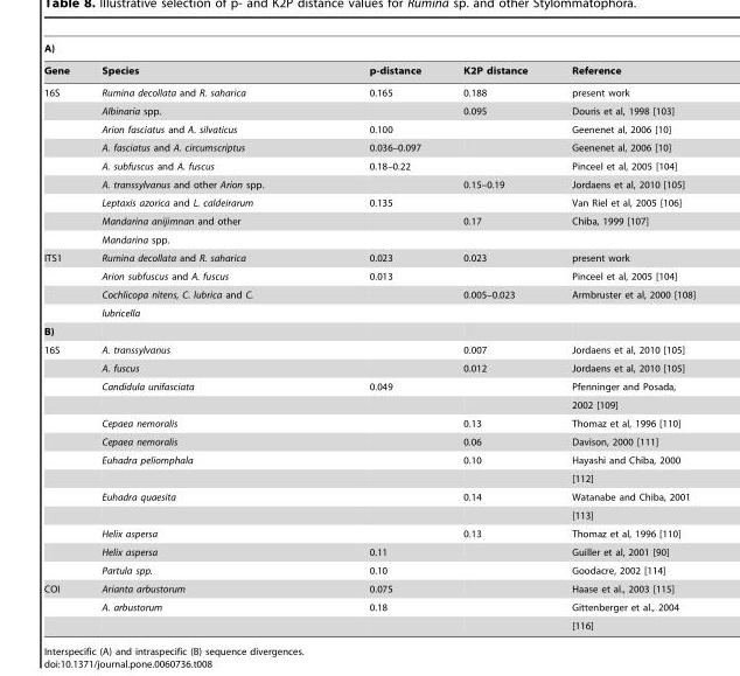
<table><thead><tr><td colspan="5">A)</td></tr><tr><td>Gene</td><td>Species</td><td>p-distance</td><td>K2P distance</td><td>Reference</td></tr></thead><tbody><tr><td rowspan="9">16S</td><td>Rumina decollata and R. saharica</td><td>0.165</td><td>0.188</td><td>present work</td></tr><tr><td>Albinaria spp.</td><td></td><td>0.095</td><td>Douris et al, 1998 [103]</td></tr><tr><td>Arion fasciatus and A. silvaticus</td><td>0.100</td><td></td><td>Geenenet al, 2006 [10]</td></tr><tr><td>A. fasciatus and A. circumscriptus</td><td>0.036–0.097</td><td></td><td>Geenenet al, 2006 [10]</td></tr><tr><td>A. subfuscus and A. fuscus</td><td>0.18–0.22</td><td></td><td>Pinceel et al, 2005 [104]</td></tr><tr><td>A. transsylvanus and other Arion spp.</td><td></td><td>0.15–0.19</td><td>Jordaens et al, 2010 [105]</td></tr><tr><td>Leptaxis azorica and L. caldeirarum</td><td>0.135</td><td></td><td>Van Riel et al, 2005 [106]</td></tr><tr><td>Mandarina anijimnan and other</td><td></td><td>0.17</td><td>Chiba, 1999 [107]</td></tr><tr><td>Mandarina spp.</td><td></td><td></td><td></td></tr><tr><td rowspan="4">ITS1</td><td>Rumina decollata and R. saharica</td><td>0.023</td><td>0.023</td><td>present work</td></tr><tr><td>Arion subfuscus and A. fuscus</td><td>0.013</td><td></td><td>Pinceel et al, 2005 [104]</td></tr><tr><td>Cochlicopa nitens, C. lubrica and C.</td><td></td><td>0.005–0.023</td><td>Armbruster et al, 2000 [108]</td></tr><tr><td>lubricella</td><td></td><td></td><td></td></tr><tr><td colspan="5">B)</td></tr><tr><td rowspan="13">16S</td><td>A. transsylvanus</td><td></td><td>0.007</td><td>Jordaens et al, 2010 [105]</td></tr><tr><td>A. fuscus</td><td></td><td>0.012</td><td>Jordaens et al, 2010 [105]</td></tr><tr><td>Candidula unifasciata</td><td>0.049</td><td></td><td>Pfenninger and Posada,</td></tr><tr><td></td><td></td><td></td><td>2002 [109]</td></tr><tr><td>Cepaea nemoralis</td><td></td><td>0.13</td><td>Thomaz et al, 1996 [110]</td></tr><tr><td>Cepaea nemoralis</td><td></td><td>0.06</td><td>Davison, 2000 [111]</td></tr><tr><td>Euhadra peliomphala</td><td></td><td>0.10</td><td>Hayashi and Chiba, 2000</td></tr><tr><td></td><td></td><td></td><td>[112]</td></tr><tr><td>Euhadra quaesita</td><td></td><td>0.14</td><td>Watanabe and Chiba, 2001</td></tr><tr><td></td><td></td><td></td><td>[113]</td></tr><tr><td>Helix aspersa</td><td></td><td>0.13</td><td>Thomaz et al, 1996 [110]</td></tr><tr><td>Helix aspersa</td><td>0.11</td><td></td><td>Guiller et al, 2001 [90]</td></tr><tr><td>Partula spp.</td><td>0.10</td><td></td><td>Goodacre, 2002 [114]</td></tr><tr><td rowspan="3">COI</td><td>Arianta arbustorum</td><td>0.075</td><td></td><td>Haase et al., 2003 [115]</td></tr><tr><td>A. arbustorum</td><td>0.18</td><td></td><td>Gittenberger et al., 2004</td></tr><tr><td></td><td></td><td></td><td>[116]</td></tr></tbody></table>